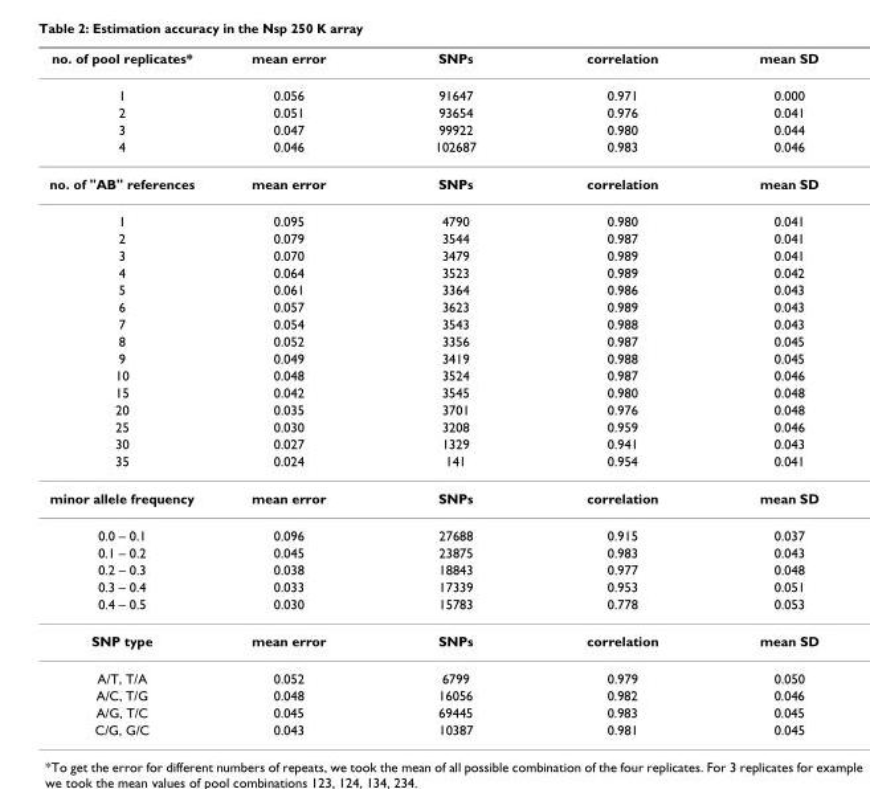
<table><thead><tr><td>no. of pool replicates*</td><td>mean error</td><td>SNPs</td><td>correlation</td><td>mean SD</td></tr></thead><tbody><tr><td>1</td><td>0.056</td><td>91647</td><td>0.971</td><td>0.000</td></tr><tr><td>2</td><td>0.051</td><td>93654</td><td>0.976</td><td>0.041</td></tr><tr><td>3</td><td>0.047</td><td>99922</td><td>0.980</td><td>0.044</td></tr><tr><td>4</td><td>0.046</td><td>102687</td><td>0.983</td><td>0.046</td></tr><tr><td>no. of &quot;AB&quot; references</td><td>mean error</td><td>SNPs</td><td>correlation</td><td>mean SD</td></tr><tr><td>1</td><td>0.095</td><td>4790</td><td>0.980</td><td>0.041</td></tr><tr><td>2</td><td>0.079</td><td>3544</td><td>0.987</td><td>0.041</td></tr><tr><td>3</td><td>0.070</td><td>3479</td><td>0.989</td><td>0.041</td></tr><tr><td>4</td><td>0.064</td><td>3523</td><td>0.989</td><td>0.042</td></tr><tr><td>5</td><td>0.061</td><td>3364</td><td>0.986</td><td>0.043</td></tr><tr><td>6</td><td>0.057</td><td>3623</td><td>0.989</td><td>0.043</td></tr><tr><td>7</td><td>0.054</td><td>3543</td><td>0.988</td><td>0.043</td></tr><tr><td>8</td><td>0.052</td><td>3356</td><td>0.987</td><td>0.045</td></tr><tr><td>9</td><td>0.049</td><td>3419</td><td>0.988</td><td>0.045</td></tr><tr><td>10</td><td>0.048</td><td>3524</td><td>0.987</td><td>0.046</td></tr><tr><td>15</td><td>0.042</td><td>3545</td><td>0.980</td><td>0.048</td></tr><tr><td>20</td><td>0.035</td><td>3701</td><td>0.976</td><td>0.048</td></tr><tr><td>25</td><td>0.030</td><td>3208</td><td>0.959</td><td>0.046</td></tr><tr><td>30</td><td>0.027</td><td>1329</td><td>0.941</td><td>0.043</td></tr><tr><td>35</td><td>0.024</td><td>141</td><td>0.954</td><td>0.041</td></tr><tr><td>minor allele frequency</td><td>mean error</td><td>SNPs</td><td>correlation</td><td>mean SD</td></tr><tr><td>0.0 – 0.1</td><td>0.096</td><td>27688</td><td>0.915</td><td>0.037</td></tr><tr><td>0.1 – 0.2</td><td>0.045</td><td>23875</td><td>0.983</td><td>0.043</td></tr><tr><td>0.2 – 0.3</td><td>0.038</td><td>18843</td><td>0.977</td><td>0.048</td></tr><tr><td>0.3 – 0.4</td><td>0.033</td><td>17339</td><td>0.953</td><td>0.051</td></tr><tr><td>0.4 – 0.5</td><td>0.030</td><td>15783</td><td>0.778</td><td>0.053</td></tr><tr><td>SNP type</td><td>mean error</td><td>SNPs</td><td>correlation</td><td>mean SD</td></tr><tr><td>A/T, T/A</td><td>0.052</td><td>6799</td><td>0.979</td><td>0.050</td></tr><tr><td>A/C, T/G</td><td>0.048</td><td>16056</td><td>0.982</td><td>0.046</td></tr><tr><td>A/G, T/C</td><td>0.045</td><td>69445</td><td>0.983</td><td>0.045</td></tr><tr><td>C/G, G/C</td><td>0.043</td><td>10387</td><td>0.981</td><td>0.045</td></tr></tbody></table>